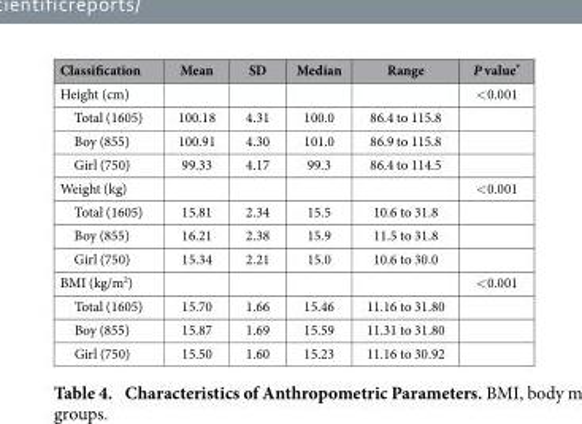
<table><thead><tr><td>Classification</td><td>Mean</td><td>SD</td><td>Median</td><td>Range</td><td>P value*</td></tr></thead><tbody><tr><td>Height (cm)</td><td></td><td></td><td></td><td></td><td>&lt; 0.001</td></tr><tr><td>Total (1605)</td><td>100.18</td><td>4.31</td><td>100.0</td><td>86.4 to 115.8</td><td></td></tr><tr><td>Boy (855)</td><td>100.91</td><td>4.30</td><td>101.0</td><td>86.9 to 115.8</td><td></td></tr><tr><td>Girl (750)</td><td>99.33</td><td>4.17</td><td>99.3</td><td>86.4 to 114.5</td><td></td></tr><tr><td>Weight (kg)</td><td></td><td></td><td></td><td></td><td>&lt; 0.001</td></tr><tr><td>Total (1605)</td><td>15.81</td><td>2.34</td><td>15.5</td><td>10.6 to 31.8</td><td></td></tr><tr><td>Boy (855)</td><td>16.21</td><td>2.38</td><td>15.9</td><td>11.5 to 31.8</td><td></td></tr><tr><td>Girl (750)</td><td>15.34</td><td>2.21</td><td>15.0</td><td>10.6 to 30.0</td><td></td></tr><tr><td>BMI (kg/m<sup>2</sup>)</td><td></td><td></td><td></td><td></td><td>&lt; 0.001</td></tr><tr><td>Total (1605)</td><td>15.70</td><td>1.66</td><td>15.46</td><td>11.16 to 31.80</td><td></td></tr><tr><td>Boy (855)</td><td>15.87</td><td>1.69</td><td>15.59</td><td>11.31 to 31.80</td><td></td></tr><tr><td>Girl (750)</td><td>15.50</td><td>1.60</td><td>15.23</td><td>11.16 to 30.92</td><td></td></tr></tbody></table>